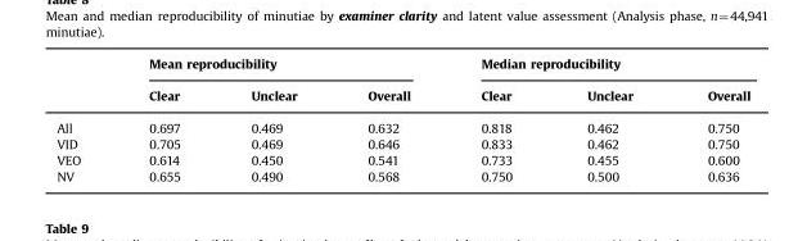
<table><thead><tr><td rowspan="2"></td><td colspan="3">Mean reproducibility</td><td colspan="3">Median reproducibility</td></tr><tr><td>Clear</td><td>Unclear</td><td>Overall</td><td>Clear</td><td>Unclear</td><td>Overall</td></tr></thead><tbody><tr><td>All</td><td>0.697</td><td>0.469</td><td>0.632</td><td>0.818</td><td>0.462</td><td>0.750</td></tr><tr><td>VID</td><td>0.705</td><td>0.469</td><td>0.646</td><td>0.833</td><td>0.462</td><td>0.750</td></tr><tr><td>VEO</td><td>0.614</td><td>0.450</td><td>0.541</td><td>0.733</td><td>0.455</td><td>0.600</td></tr><tr><td>NV</td><td>0.655</td><td>0.490</td><td>0.568</td><td>0.750</td><td>0.500</td><td>0.636</td></tr></tbody></table>